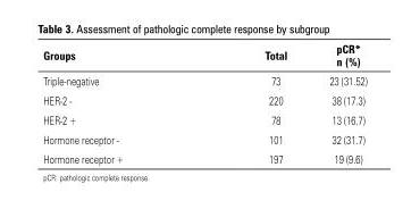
<table><thead><tr><td>Groups</td><td>Total</td><td>pCR* n (%)</td></tr></thead><tbody><tr><td>Triple-negative</td><td>73</td><td>23 (31.52)</td></tr><tr><td>HER-2 -</td><td>220</td><td>38 (17.3)</td></tr><tr><td>HER-2 +</td><td>78</td><td>13 (16.7)</td></tr><tr><td>Hormone receptor -</td><td>101</td><td>32 (31.7)</td></tr><tr><td>Hormone receptor +</td><td>197</td><td>19 (9.6)</td></tr></tbody></table>